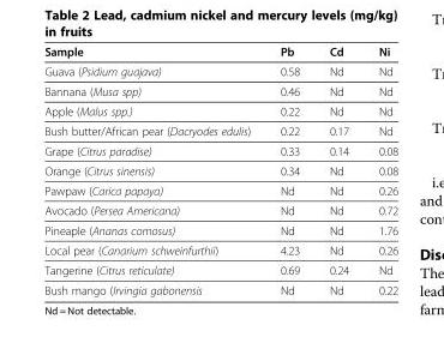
<table><thead><tr><td>Sample</td><td>Pb</td><td>Cd</td><td>Ni</td></tr></thead><tbody><tr><td>Guava (Psidium guajava)</td><td>0.58</td><td>Nd</td><td>Nd</td></tr><tr><td>Bannana (Musa spp)</td><td>0.46</td><td>Nd</td><td>Nd</td></tr><tr><td>Apple (Malus spp.)</td><td>0.22</td><td>Nd</td><td>Nd</td></tr><tr><td>Bush butter/African pear (Dacryodes edulis)</td><td>0.22</td><td>0.17</td><td>Nd</td></tr><tr><td>Grape (Citrus paradise)</td><td>0.33</td><td>0.14</td><td>0.08</td></tr><tr><td>Orange (Citrus sinensis)</td><td>0.34</td><td>Nd</td><td>0.08</td></tr><tr><td>Pawpaw (Carica papaya)</td><td>Nd</td><td>Nd</td><td>0.26</td></tr><tr><td>Avocado (Persea Americana)</td><td>Nd</td><td>Nd</td><td>0.72</td></tr><tr><td>Pineaple (Ananas comosus)</td><td>Nd</td><td>Nd</td><td>1.76</td></tr><tr><td>Local pear (Canarium schweinfurthii)</td><td>4.23</td><td>Nd</td><td>0.26</td></tr><tr><td>Tangerine (Citrus reticulate)</td><td>0.69</td><td>0.24</td><td>Nd</td></tr><tr><td>Bush mango (Irvingia gabonensis</td><td>Nd</td><td>Nd</td><td>0.22</td></tr></tbody></table>